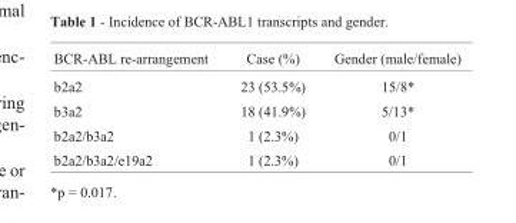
<table><thead><tr><td>BCR-ABL re-arrangement</td><td>Case (%)</td><td>Gender (male/female)</td></tr></thead><tbody><tr><td>b2a2</td><td>23 (53.5%)</td><td>15/8*</td></tr><tr><td>b3a2</td><td>18 (41.9%)</td><td>5/13*</td></tr><tr><td>b2a2/b3a2</td><td>1 (2.3%)</td><td>0/1</td></tr><tr><td>b2a2/b3a2/e19a2</td><td>1 (2.3%)</td><td>0/1</td></tr></tbody></table>